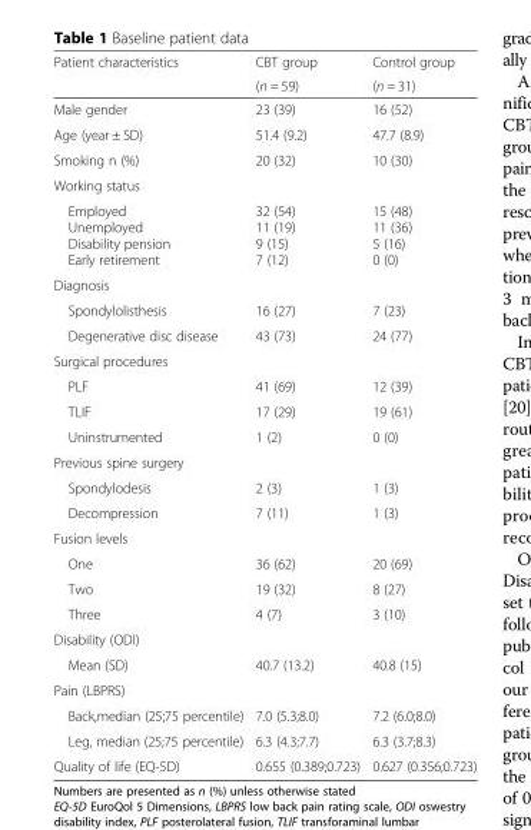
<table><thead><tr><td rowspan="2">Patient characteristics</td><td rowspan="2">CBT group (n = 59)</td><td rowspan="2">Control group (n = 31)</td></tr><tr></tr></thead><tbody><tr><td>Male gender</td><td>23 (39)</td><td>16 (52)</td></tr><tr><td>Age (year ± SD)</td><td>51.4 (9.2)</td><td>47.7 (8.9)</td></tr><tr><td>Smoking n (%)</td><td>20 (32)</td><td>10 (30)</td></tr><tr><td colspan="3">Working status</td></tr><tr><td>Employed Unemployed Disability pension Early retirement</td><td>32 (54) 11 (19) 9 (15) 7 (12)</td><td>15 (48) 11 (36) 5 (16) 0 (0)</td></tr><tr><td colspan="3">Diagnosis</td></tr><tr><td>Spondylolisthesis</td><td>16 (27)</td><td>7 (23)</td></tr><tr><td>Degenerative disc disease</td><td>43 (73)</td><td>24 (77)</td></tr><tr><td colspan="3">Surgical procedures</td></tr><tr><td>PLF</td><td>41 (69)</td><td>12 (39)</td></tr><tr><td>TLIF</td><td>17 (29)</td><td>19 (61)</td></tr><tr><td>Uninstrumented</td><td>1 (2)</td><td>0 (0)</td></tr><tr><td colspan="3">Previous spine surgery</td></tr><tr><td>Spondylodesis</td><td>2 (3)</td><td>1 (3)</td></tr><tr><td>Decompression</td><td>7 (11)</td><td>1 (3)</td></tr><tr><td colspan="3">Fusion levels</td></tr><tr><td>One</td><td>36 (62)</td><td>20 (69)</td></tr><tr><td>Two</td><td>19 (32)</td><td>8 (27)</td></tr><tr><td>Three</td><td>4 (7)</td><td>3 (10)</td></tr><tr><td colspan="3">Disability (ODI)</td></tr><tr><td>Mean (SD)</td><td>40.7 (13.2)</td><td>40.8 (15)</td></tr><tr><td colspan="3">Pain (LBPRS)</td></tr><tr><td>Back,median (25;75 percentile)</td><td>7.0 (5.3;8.0)</td><td>7.2 (6.0;8.0)</td></tr><tr><td>Leg, median (25;75 percentile)</td><td>6.3 (4.3;7.7)</td><td>6.3 (3.7;8.3)</td></tr><tr><td>Quality of life (EQ-5D)</td><td>0.655 (0.389;0.723)</td><td>0.627 (0.356;0.723)</td></tr></tbody></table>